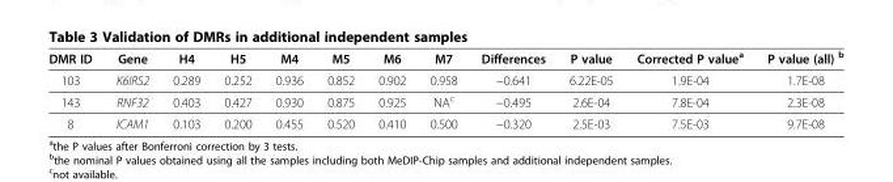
<table><thead><tr><td>DMR ID</td><td>Gene</td><td>H4</td><td>H5</td><td>M4</td><td>M5</td><td>M6</td><td>M7</td><td>Differences</td><td>P value</td><td>Corrected P value<sup>a</sup></td><td>P value (all) <sup>b</sup></td></tr></thead><tbody><tr><td>103</td><td>K6IRS2</td><td>0.289</td><td>0.252</td><td>0.936</td><td>0.852</td><td>0.902</td><td>0.958</td><td>−0.641</td><td>6.22E-05</td><td>1.9E-04</td><td>1.7E-08</td></tr><tr><td>143</td><td>RNF32</td><td>0.403</td><td>0.427</td><td>0.930</td><td>0.875</td><td>0.925</td><td>NA<sup>c</sup></td><td>−0.495</td><td>2.6E-04</td><td>7.8E-04</td><td>2.3E-08</td></tr><tr><td>8</td><td>ICAM1</td><td>0.103</td><td>0.200</td><td>0.455</td><td>0.520</td><td>0.410</td><td>0.500</td><td>−0.320</td><td>2.5E-03</td><td>7.5E-03</td><td>9.7E-08</td></tr></tbody></table>